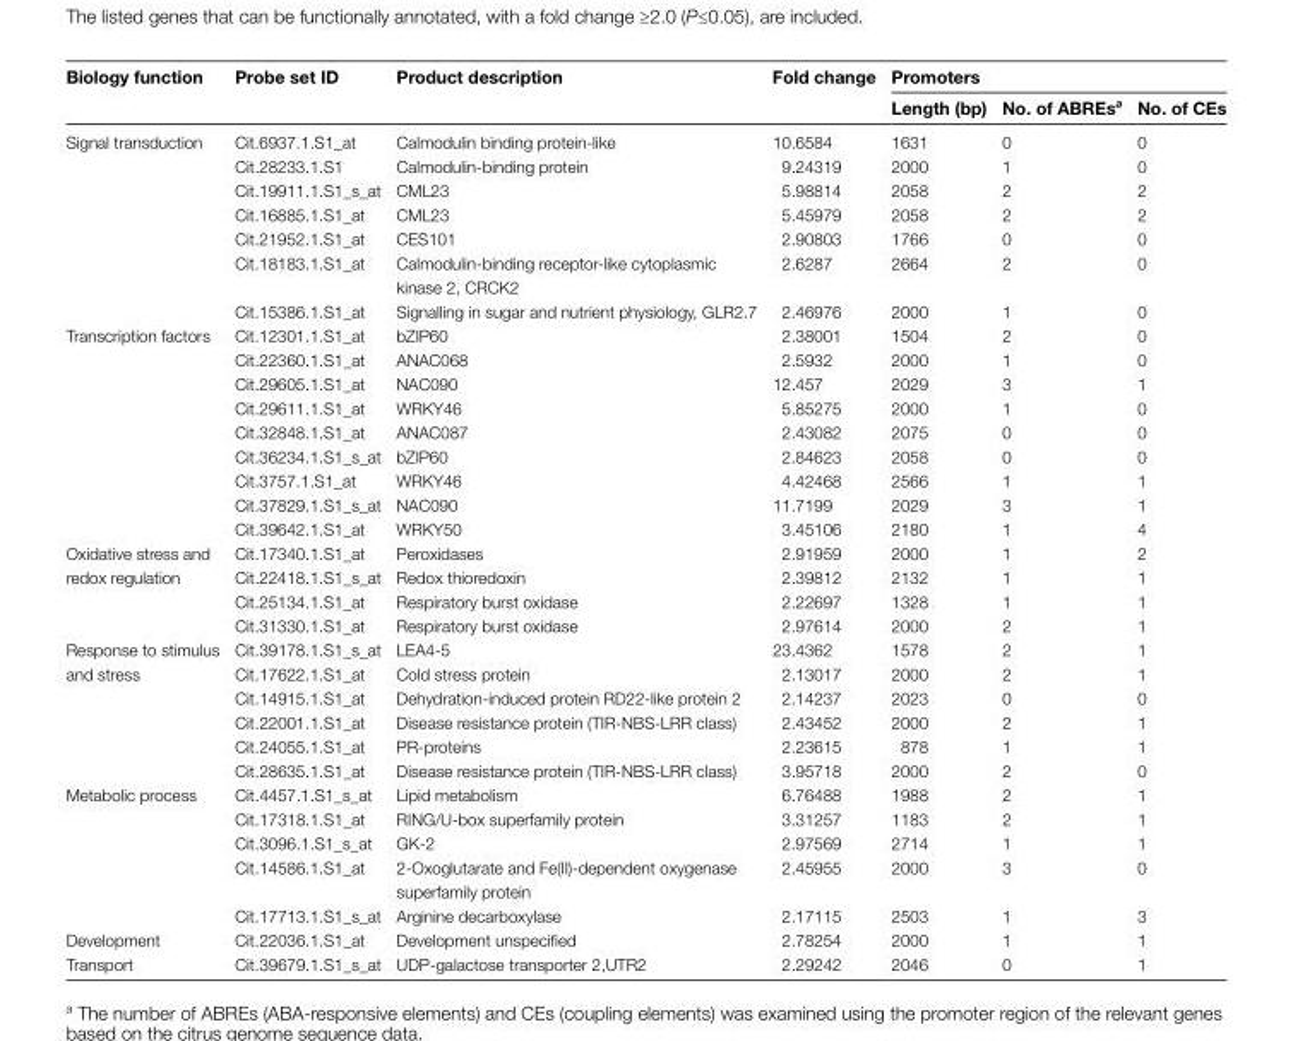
<table><thead><tr><td rowspan="2">Biology function</td><td rowspan="2">Probe set ID</td><td rowspan="2">Product description</td><td rowspan="2">Fold change</td><td colspan="3">Promoters</td></tr><tr><td>Length (bp)</td><td>No. of ABREs<sup>a</sup></td><td>No. of CEs</td></tr></thead><tbody><tr><td rowspan="7">Signal transduction</td><td>Cit.6937.1.S1_at</td><td>Calmodulin binding protein-like</td><td>10.6584</td><td>1631</td><td>0</td><td>0</td></tr><tr><td>Cit.28233.1.S1</td><td>Calmodulin-binding protein</td><td>9.24319</td><td>2000</td><td>1</td><td>0</td></tr><tr><td>Cit.19911.1.S1_s_at</td><td>CML23</td><td>5.98814</td><td>2058</td><td>2</td><td>2</td></tr><tr><td>Cit.16885.1.S1_at</td><td>CML23</td><td>5.45979</td><td>2058</td><td>2</td><td>2</td></tr><tr><td>Cit.21952.1.S1_at</td><td>CES101</td><td>2.90803</td><td>1766</td><td>0</td><td>0</td></tr><tr><td>Cit.18183.1.S1_at</td><td>Calmodulin-binding receptor-like cytoplasmic kinase 2, CRCK2</td><td>2.6287</td><td>2664</td><td>2</td><td>0</td></tr><tr><td>Cit.15386.1.S1_at</td><td>Signalling in sugar and nutrient physiology, GLR2.7</td><td>2.46976</td><td>2000</td><td>1</td><td>0</td></tr><tr><td rowspan="9">Transcription factors</td><td>Cit.12301.1.S1_at</td><td>bZIP60</td><td>2.38001</td><td>1504</td><td>2</td><td>0</td></tr><tr><td>Cit.22360.1.S1_at</td><td>ANAC068</td><td>2.5932</td><td>2000</td><td>1</td><td>0</td></tr><tr><td>Cit.29605.1.S1_at</td><td>NAC090</td><td>12.457</td><td>2029</td><td>3</td><td>1</td></tr><tr><td>Cit.29611.1.S1_at</td><td>WRKY46</td><td>5.85275</td><td>2000</td><td>1</td><td>0</td></tr><tr><td>Cit.32848.1.S1_at</td><td>ANAC087</td><td>2.43082</td><td>2075</td><td>0</td><td>0</td></tr><tr><td>Cit.36234.1.S1_s_at</td><td>bZIP60</td><td>2.84623</td><td>2058</td><td>0</td><td>0</td></tr><tr><td>Cit.3757.1.S1_at</td><td>WRKY46</td><td>4.42468</td><td>2566</td><td>1</td><td>1</td></tr><tr><td>Cit.37829.1.S1_s_at</td><td>NAC090</td><td>11.7199</td><td>2029</td><td>3</td><td>1</td></tr><tr><td>Cit.39642.1.S1_at</td><td>WRKY50</td><td>3.45106</td><td>2180</td><td>1</td><td>4</td></tr><tr><td rowspan="4">Oxidative stress and redox regulation</td><td>Cit.17340.1.S1_at</td><td>Peroxidases</td><td>2.91959</td><td>2000</td><td>1</td><td>2</td></tr><tr><td>Cit.22418.1.S1_s_at</td><td>Redox thioredoxin</td><td>2.39812</td><td>2132</td><td>1</td><td>1</td></tr><tr><td>Cit.25134.1.S1_at</td><td>Respiratory burst oxidase</td><td>2.22697</td><td>1328</td><td>1</td><td>1</td></tr><tr><td>Cit.31330.1.S1_at</td><td>Respiratory burst oxidase</td><td>2.97614</td><td>2000</td><td>2</td><td>1</td></tr><tr><td rowspan="6">Response to stimulus and stress</td><td>Cit.39178.1.S1_s_at</td><td>LEA4-5</td><td>23.4362</td><td>1578</td><td>2</td><td>1</td></tr><tr><td>Cit.17622.1.S1_at</td><td>Cold stress protein</td><td>2.13017</td><td>2000</td><td>2</td><td>1</td></tr><tr><td>Cit.14915.1.S1_at</td><td>Dehydration-induced protein RD22-like protein 2</td><td>2.14237</td><td>2023</td><td>0</td><td>0</td></tr><tr><td>Cit.22001.1.S1_at</td><td>Disease resistance protein (TIR-NBS-LRR class)</td><td>2.43452</td><td>2000</td><td>2</td><td>1</td></tr><tr><td>Cit.24055.1.S1_at</td><td>PR-proteins</td><td>2.23615</td><td>878</td><td>1</td><td>1</td></tr><tr><td>Cit.28635.1.S1_at</td><td>Disease resistance protein (TIR-NBS-LRR class)</td><td>3.95718</td><td>2000</td><td>2</td><td>0</td></tr><tr><td rowspan="5">Metabolic process</td><td>Cit.4457.1.S1_s_at</td><td>Lipid metabolism</td><td>6.76488</td><td>1988</td><td>2</td><td>1</td></tr><tr><td>Cit.17318.1.S1_at</td><td>RING/U-box superfamily protein</td><td>3.31257</td><td>1183</td><td>2</td><td>1</td></tr><tr><td>Cit.3096.1.S1_s_at</td><td>GK-2</td><td>2.97569</td><td>2714</td><td>1</td><td>1</td></tr><tr><td>Cit.14586.1.S1_at</td><td>2-Oxoglutarate and Fe(II)-dependent oxygenase superfamily protein</td><td>2.45955</td><td>2000</td><td>3</td><td>0</td></tr><tr><td>Cit.17713.1.S1_s_at</td><td>Arginine decarboxylase</td><td>2.17115</td><td>2503</td><td>1</td><td>3</td></tr><tr><td>Development</td><td>Cit.22036.1.S1_at</td><td>Development unspecified</td><td>2.78254</td><td>2000</td><td>1</td><td>1</td></tr><tr><td>Transport</td><td>Cit.39679.1.S1_s_at</td><td>UDP-galactose transporter 2,UTR2</td><td>2.29242</td><td>2046</td><td>0</td><td>1</td></tr></tbody></table>